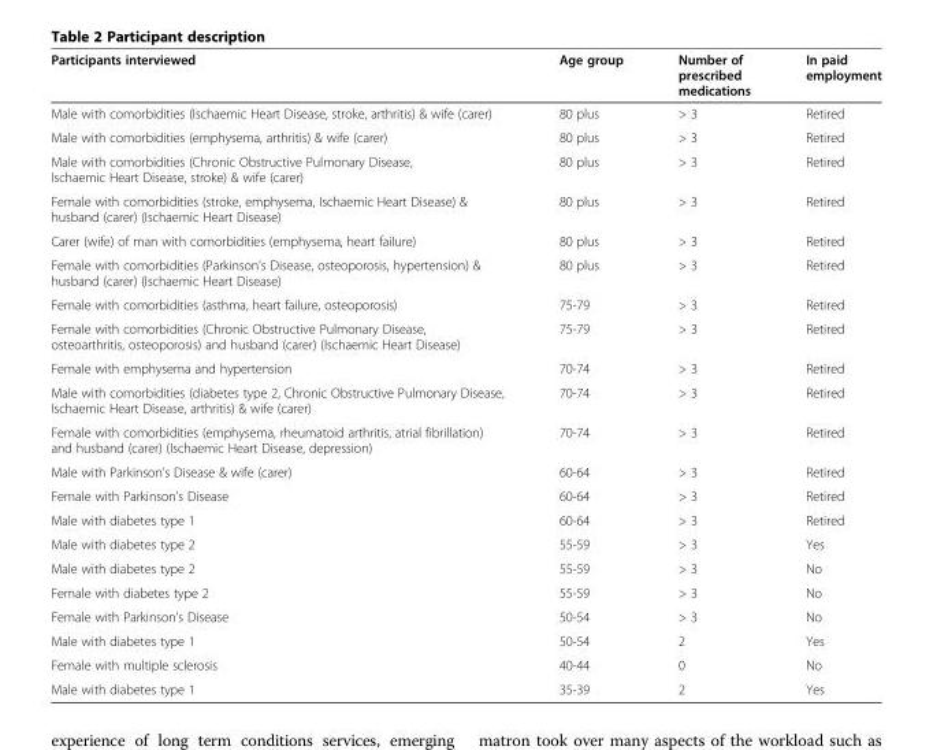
<table><thead><tr><td>Participants interviewed</td><td>Age group</td><td>Number of prescribed medications</td><td>In paid employment</td></tr></thead><tbody><tr><td>Male with comorbidities (Ischaemic Heart Disease, stroke, arthritis) &amp; wife (carer)</td><td>80 plus</td><td>&gt; 3</td><td>Retired</td></tr><tr><td>Male with comorbidities (emphysema, arthritis) &amp; wife (carer)</td><td>80 plus</td><td>&gt; 3</td><td>Retired</td></tr><tr><td>Male with comorbidities (Chronic Obstructive Pulmonary Disease, Ischaemic Heart Disease, stroke) &amp; wife (carer)</td><td>80 plus</td><td>&gt; 3</td><td>Retired</td></tr><tr><td>Female with comorbidities (stroke, emphysema, Ischaemic Heart Disease) &amp; husband (carer) (Ischaemic Heart Disease)</td><td>80 plus</td><td>&gt; 3</td><td>Retired</td></tr><tr><td>Carer (wife) of man with comorbidities (emphysema, heart failure)</td><td>80 plus</td><td>&gt; 3</td><td>Retired</td></tr><tr><td>Female with comorbidities (Parkinson’s Disease, osteoporosis, hypertension) &amp; husband (carer) (Ischaemic Heart Disease)</td><td>80 plus</td><td>&gt; 3</td><td>Retired</td></tr><tr><td>Female with comorbidities (asthma, heart failure, osteoporosis)</td><td>75-79</td><td>&gt; 3</td><td>Retired</td></tr><tr><td>Female with comorbidities (Chronic Obstructive Pulmonary Disease, osteoarthritis, osteoporosis) and husband (carer) (Ischaemic Heart Disease)</td><td>75-79</td><td>&gt; 3</td><td>Retired</td></tr><tr><td>Female with emphysema and hypertension</td><td>70-74</td><td>&gt; 3</td><td>Retired</td></tr><tr><td>Male with comorbidities (diabetes type 2, Chronic Obstructive Pulmonary Disease, Ischaemic Heart Disease, arthritis) &amp; wife (carer)</td><td>70-74</td><td>&gt; 3</td><td>Retired</td></tr><tr><td>Female with comorbidities (emphysema, rheumatoid arthritis, atrial fibrillation) and husband (carer) (Ischaemic Heart Disease, depression)</td><td>70-74</td><td>&gt; 3</td><td>Retired</td></tr><tr><td>Male with Parkinson’s Disease &amp; wife (carer)</td><td>60-64</td><td>&gt; 3</td><td>Retired</td></tr><tr><td>Female with Parkinson’s Disease</td><td>60-64</td><td>&gt; 3</td><td>Retired</td></tr><tr><td>Male with diabetes type 1</td><td>60-64</td><td>&gt; 3</td><td>Retired</td></tr><tr><td>Male with diabetes type 2</td><td>55-59</td><td>&gt; 3</td><td>Yes</td></tr><tr><td>Male with diabetes type 2</td><td>55-59</td><td>&gt; 3</td><td>No</td></tr><tr><td>Female with diabetes type 2</td><td>55-59</td><td>&gt; 3</td><td>No</td></tr><tr><td>Female with Parkinson’s Disease</td><td>50-54</td><td>&gt; 3</td><td>No</td></tr><tr><td>Male with diabetes type 1</td><td>50-54</td><td>2</td><td>Yes</td></tr><tr><td>Female with multiple sclerosis</td><td>40-44</td><td>0</td><td>No</td></tr><tr><td>Male with diabetes type 1</td><td>35-39</td><td>2</td><td>Yes</td></tr></tbody></table>